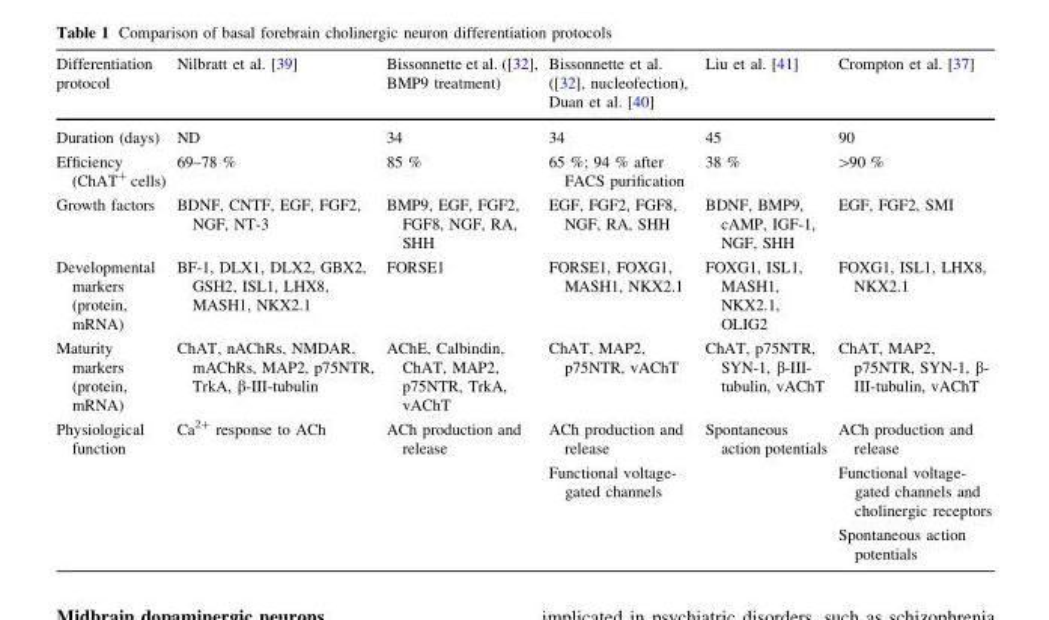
<table><thead><tr><td>Differentiation protocol</td><td>Nilbratt et al. [39]</td><td>Bissonnette et al. ([32], BMP9 treatment)</td><td>Bissonnette et al. ([32], nucleofection), Duan et al. [40]</td><td>Liu et al. [41]</td><td>Crompton et al. [37]</td></tr></thead><tbody><tr><td>Duration (days)</td><td>ND</td><td>34</td><td>34</td><td>45</td><td>90</td></tr><tr><td>Efficiency (ChAT<sup>+</sup> cells)</td><td>69–78 %</td><td>85 %</td><td>65 %; 94 % after FACS purification</td><td>38 %</td><td>&gt;90 %</td></tr><tr><td>Growth factors</td><td>BDNF, CNTF, EGF, FGF2, NGF, NT-3</td><td>BMP9, EGF, FGF2, FGF8, NGF, RA, SHH</td><td>EGF, FGF2, FGF8, NGF, RA, SHH</td><td>BDNF, BMP9, cAMP, IGF-1, NGF, SHH</td><td>EGF, FGF2, SMI</td></tr><tr><td>Developmental markers (protein, mRNA)</td><td>BF-1, DLX1, DLX2, GBX2, GSH2, ISL1, LHX8, MASH1, NKX2.1</td><td>FORSE1</td><td>FORSE1, FOXG1, MASH1, NKX2.1</td><td>FOXG1, ISL1, MASH1, NKX2.1, OLIG2</td><td>FOXG1, ISL1, LHX8, NKX2.1</td></tr><tr><td>Maturity markers (protein, mRNA)</td><td>ChAT, nAChRs, NMDAR, mAChRs, MAP2, p75NTR, TrkA, β-III-tubulin</td><td>AChE, Calbindin, ChAT, MAP2, p75NTR, TrkA, vAChT</td><td>ChAT, MAP2, p75NTR, vAChT</td><td>ChAT, p75NTR, SYN-1, β-III- tubulin, vAChT</td><td>ChAT, MAP2, p75NTR, SYN-1, β- III-tubulin, vAChT</td></tr><tr><td>Physiological function</td><td>Ca<sup>2+</sup> response to ACh</td><td>ACh production and release</td><td>ACh production and release Functional voltage- gated channels</td><td>Spontaneous action potentials</td><td>ACh production and release Functional voltage- gated channels and cholinergic receptors Spontaneous action potentials</td></tr></tbody></table>